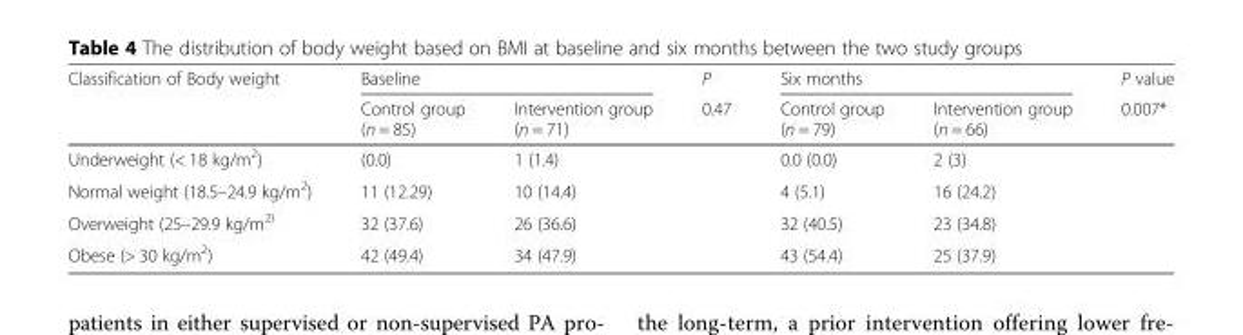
<table><thead><tr><td rowspan="2">Classification of Body weight</td><td colspan="2">Baseline</td><td rowspan="2">P 0.47</td><td colspan="2">Six months</td><td rowspan="2">P value 0.007*</td></tr><tr><td>Control group (n = 85)</td><td>Intervention group (n = 71)</td><td>Control group (n = 79)</td><td>Intervention group (n = 66)</td></tr></thead><tbody><tr><td>Underweight (&lt; 18 kg/m<sup>2</sup>)</td><td>(0.0)</td><td>1 (1.4)</td><td></td><td>0.0 (0.0)</td><td>2 (3)</td><td></td></tr><tr><td>Normal weight (18.5–24.9 kg/m<sup>2</sup>)</td><td>11 (12.29)</td><td>10 (14.4)</td><td></td><td>4 (5.1)</td><td>16 (24.2)</td><td></td></tr><tr><td>Overweight (25–29.9 kg/m<sup>2)</sup></td><td>32 (37.6)</td><td>26 (36.6)</td><td></td><td>32 (40.5)</td><td>23 (34.8)</td><td></td></tr><tr><td>Obese (&gt; 30 kg/m<sup>2</sup>)</td><td>42 (49.4)</td><td>34 (47.9)</td><td></td><td>43 (54.4)</td><td>25 (37.9)</td><td></td></tr></tbody></table>